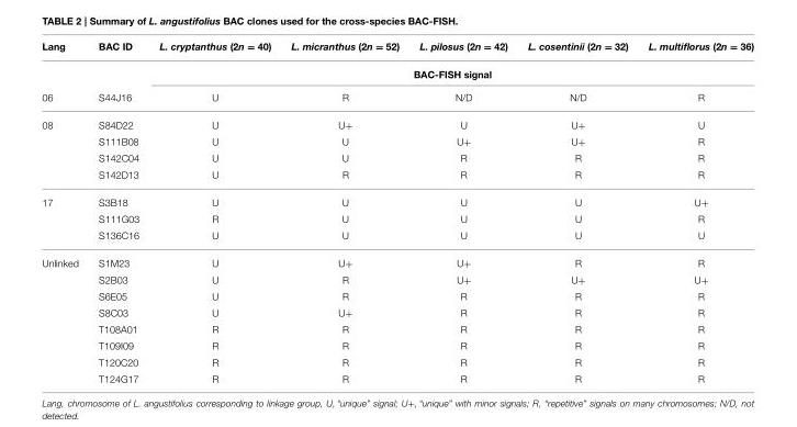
<table><thead><tr><td>Lang</td><td>BAC ID</td><td>L. cryptanthus (2n = 40)</td><td>L. micranthus (2n = 52)</td><td>L. pilosus (2n = 42)</td><td>L. cosentinii (2n = 32)</td><td>L. multiflorus (2n = 36)</td></tr></thead><tbody><tr><td></td><td></td><td colspan="5">BAC-FISH signal</td></tr><tr><td>06</td><td>S44J16</td><td>U</td><td>R</td><td>N/D</td><td>N/D</td><td>R</td></tr><tr><td rowspan="4">08</td><td>S84D22</td><td>U</td><td>U+</td><td>U</td><td>U+</td><td>U</td></tr><tr><td>S111B08</td><td>U</td><td>U</td><td>U+</td><td>U+</td><td>R</td></tr><tr><td>S142C04</td><td>U</td><td>U</td><td>R</td><td>R</td><td>R</td></tr><tr><td>S142D13</td><td>U</td><td>R</td><td>R</td><td>R</td><td>R</td></tr><tr><td rowspan="3">17</td><td>S3B18</td><td>U</td><td>U</td><td>U</td><td>U</td><td>U+</td></tr><tr><td>S111G03</td><td>R</td><td>U</td><td>U</td><td>U</td><td>R</td></tr><tr><td>S136C16</td><td>U</td><td>U</td><td>U</td><td>U</td><td>U</td></tr><tr><td rowspan="8">Unlinked</td><td>S1M23</td><td>U</td><td>U+</td><td>U+</td><td>R</td><td>R</td></tr><tr><td>S2B03</td><td>U</td><td>R</td><td>U+</td><td>U+</td><td>U+</td></tr><tr><td>S6E05</td><td>U</td><td>R</td><td>R</td><td>R</td><td>R</td></tr><tr><td>S8C03</td><td>U</td><td>U+</td><td>R</td><td>R</td><td>R</td></tr><tr><td>T108A01</td><td>R</td><td>R</td><td>R</td><td>R</td><td>R</td></tr><tr><td>T109I09</td><td>R</td><td>R</td><td>R</td><td>R</td><td>R</td></tr><tr><td>T120C20</td><td>R</td><td>R</td><td>R</td><td>R</td><td>R</td></tr><tr><td>T124G17</td><td>R</td><td>R</td><td>R</td><td>R</td><td>R</td></tr></tbody></table>